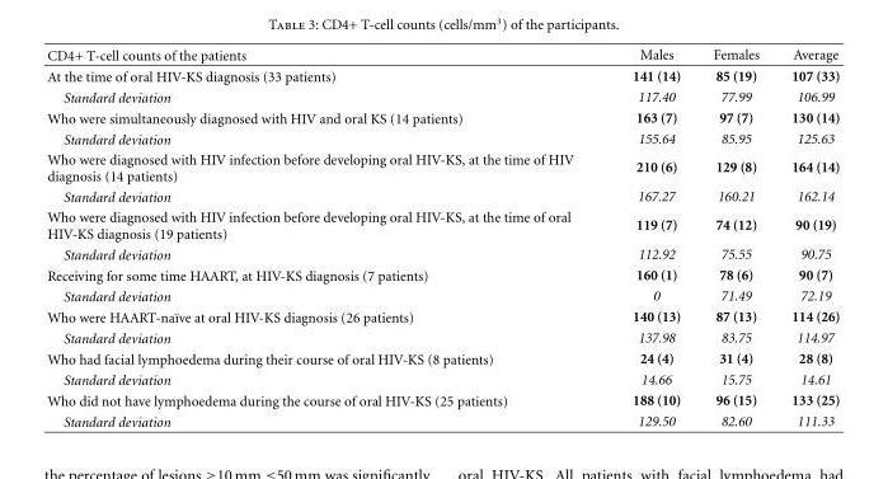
<table><thead><tr><td>CD4+ T-cell counts of the patients</td><td>Males</td><td>Females</td><td>Average</td></tr></thead><tbody><tr><td>At the time of oral HIV-KS diagnosis (33 patients)</td><td>141 (14)</td><td>85 (19)</td><td>107 (33)</td></tr><tr><td>Standard deviation</td><td>117.40</td><td>77.99</td><td>106.99</td></tr><tr><td>Who were simultaneously diagnosed with HIV and oral KS (14 patients)</td><td>163 (7)</td><td>97 (7)</td><td>130 (14)</td></tr><tr><td>Standard deviation</td><td>155.64</td><td>85.95</td><td>125.63</td></tr><tr><td>Who were diagnosed with HIV infection before developing oral HIV-KS, at the time of HIV diagnosis (14 patients)</td><td>210 (6)</td><td>129 (8)</td><td>164 (14)</td></tr><tr><td>Standard deviation</td><td>167.27</td><td>160.21</td><td>162.14</td></tr><tr><td>Who were diagnosed with HIV infection before developing oral HIV-KS, at the time of oral HIV-KS diagnosis (19 patients)</td><td>119 (7)</td><td>74 (12)</td><td>90 (19)</td></tr><tr><td>Standard deviation</td><td>112.92</td><td>75.55</td><td>90.75</td></tr><tr><td>Receiving for some time HAART, at HIV-KS diagnosis (7 patients)</td><td>160 (1)</td><td>78 (6)</td><td>90 (7)</td></tr><tr><td>Standard deviation</td><td>0</td><td>71.49</td><td>72.19</td></tr><tr><td>Who were HAART-na¨ıve at oral HIV-KS diagnosis (26 patients)</td><td>140 (13)</td><td>87 (13)</td><td>114 (26)</td></tr><tr><td>Standard deviation</td><td>137.98</td><td>83.75</td><td>114.97</td></tr><tr><td>Who had facial lymphoedema during their course of oral HIV-KS (8 patients)</td><td>24 (4)</td><td>31 (4)</td><td>28 (8)</td></tr><tr><td>Standard deviation</td><td>14.66</td><td>15.75</td><td>14.61</td></tr><tr><td>Who did not have lymphoedema during the course of oral HIV-KS (25 patients)</td><td>188 (10)</td><td>96 (15)</td><td>133 (25)</td></tr><tr><td>Standard deviation</td><td>129.50</td><td>82.60</td><td>111.33</td></tr></tbody></table>